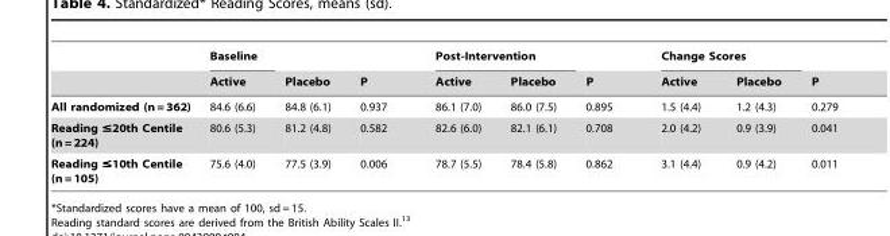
<table><thead><tr><td rowspan="2"></td><td rowspan="2">Baseline Active</td><td rowspan="2">Placebo</td><td rowspan="2">P</td><td colspan="2">Post-Intervention</td><td rowspan="2">P</td><td colspan="2">Change Scores</td><td rowspan="2">P</td></tr><tr><td>Active</td><td>Placebo</td><td>Active</td><td>Placebo</td></tr></thead><tbody><tr><td>All randomized (n = 362)</td><td>84.6 (6.6)</td><td>84.8 (6.1)</td><td>0.937</td><td>86.1 (7.0)</td><td>86.0 (7.5)</td><td>0.895</td><td>1.5 (4.4)</td><td>1.2 (4.3)</td><td>0.279</td></tr><tr><td>Reading ≤20th Centile (n = 224)</td><td>80.6 (5.3)</td><td>81.2 (4.8)</td><td>0.582</td><td>82.6 (6.0)</td><td>82.1 (6.1)</td><td>0.708</td><td>2.0 (4.2)</td><td>0.9 (3.9)</td><td>0.041</td></tr><tr><td>Reading ≤10th Centile (n = 105)</td><td>75.6 (4.0)</td><td>77.5 (3.9)</td><td>0.006</td><td>78.7 (5.5)</td><td>78.4 (5.8)</td><td>0.862</td><td>3.1 (4.4)</td><td>0.9 (4.2)</td><td>0.011</td></tr></tbody></table>